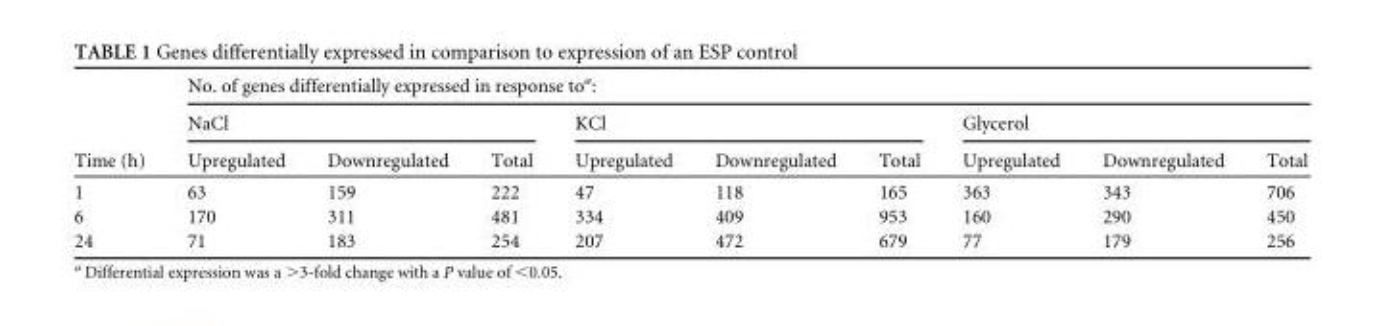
<table><thead><tr><td rowspan="3">Time (h)</td><td colspan="9">No. of genes differentially expressed in response to<sup>a</sup>:</td></tr><tr><td colspan="3">NaCl</td><td colspan="3">KCl</td><td colspan="3">Glycerol</td></tr><tr><td>Upregulated</td><td>Downregulated</td><td>Total</td><td>Upregulated</td><td>Downregulated</td><td>Total</td><td>Upregulated</td><td>Downregulated</td><td>Total</td></tr></thead><tbody><tr><td>1</td><td>63</td><td>159</td><td>222</td><td>47</td><td>118</td><td>165</td><td>363</td><td>343</td><td>706</td></tr><tr><td>6</td><td>170</td><td>311</td><td>481</td><td>334</td><td>409</td><td>953</td><td>160</td><td>290</td><td>450</td></tr><tr><td>24</td><td>71</td><td>183</td><td>254</td><td>207</td><td>472</td><td>679</td><td>77</td><td>179</td><td>256</td></tr></tbody></table>